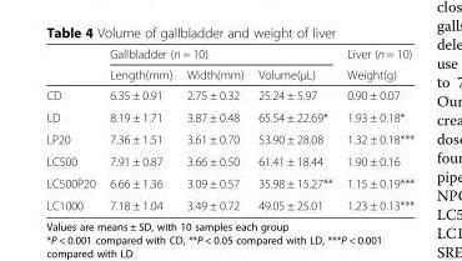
<table><thead><tr><td rowspan="2"></td><td colspan="3">Gallbladder (n = 10)</td><td rowspan="2">Liver (n = 10) Weight(g)</td></tr><tr><td>Length(mm)</td><td>Width(mm)</td><td>Volume(μL)</td></tr></thead><tbody><tr><td>CD</td><td>6.35 ± 0.91</td><td>2.75 ± 0.32</td><td>25.24 ± 5.97</td><td>0.90 ± 0.07</td></tr><tr><td>LD</td><td>8.19 ± 1.71</td><td>3.87 ± 0.48</td><td>65.54 ± 22.69*</td><td>1.93 ± 0.18*</td></tr><tr><td>LP20</td><td>7.36 ± 1.51</td><td>3.61 ± 0.70</td><td>53.90 ± 28.08</td><td>1.32 ± 0.18***</td></tr><tr><td>LC500</td><td>7.91 ± 0.87</td><td>3.66 ± 0.50</td><td>61.41 ± 18.44</td><td>1.90 ± 0.16</td></tr><tr><td>LC500P20</td><td>6.66 ± 1.36</td><td>3.09 ± 0.57</td><td>35.98 ± 15.27**</td><td>1.15 ± 0.19***</td></tr><tr><td>LC1000</td><td>7.18 ± 1.04</td><td>3.49 ± 0.72</td><td>49.05 ± 25.01</td><td>1.23 ± 0.13***</td></tr></tbody></table>